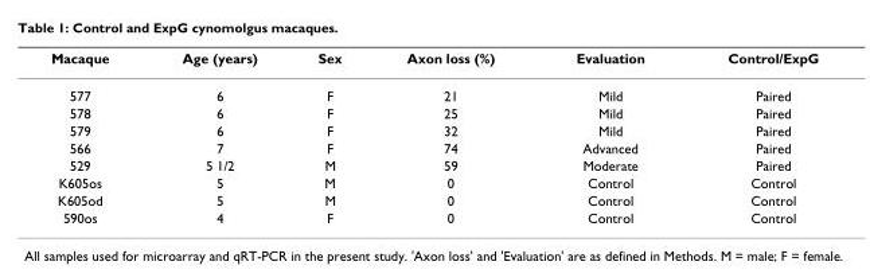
<table><thead><tr><td>Macaque</td><td>Age (years)</td><td>Sex</td><td>Axon loss (%)</td><td>Evaluation</td><td>Control/ExpG</td></tr></thead><tbody><tr><td>577</td><td>6</td><td>F</td><td>21</td><td>Mild</td><td>Paired</td></tr><tr><td>578</td><td>6</td><td>F</td><td>25</td><td>Mild</td><td>Paired</td></tr><tr><td>579</td><td>6</td><td>F</td><td>32</td><td>Mild</td><td>Paired</td></tr><tr><td>566</td><td>7</td><td>F</td><td>74</td><td>Advanced</td><td>Paired</td></tr><tr><td>529</td><td>5 1/2</td><td>M</td><td>59</td><td>Moderate</td><td>Paired</td></tr><tr><td>K605os</td><td>5</td><td>M</td><td>0</td><td>Control</td><td>Control</td></tr><tr><td>K605od</td><td>5</td><td>M</td><td>0</td><td>Control</td><td>Control</td></tr><tr><td>590os</td><td>4</td><td>F</td><td>0</td><td>Control</td><td>Control</td></tr></tbody></table>